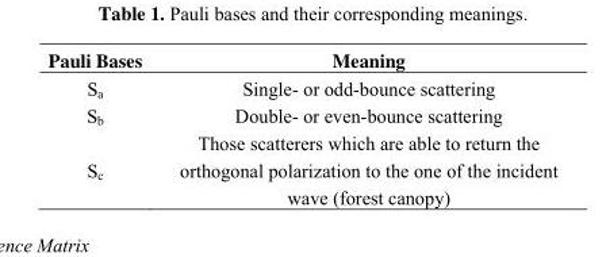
<table><thead><tr><td>Pauli Bases</td><td>Meaning</td></tr></thead><tbody><tr><td>S<sub>a</sub></td><td>Single- or odd-bounce scattering</td></tr><tr><td>S<sub>b</sub></td><td>Double- or even-bounce scattering</td></tr><tr><td>S<sub>c</sub></td><td>Those scatterers which are able to return the orthogonal polarization to the one of the incident wave (forest canopy)</td></tr></tbody></table>